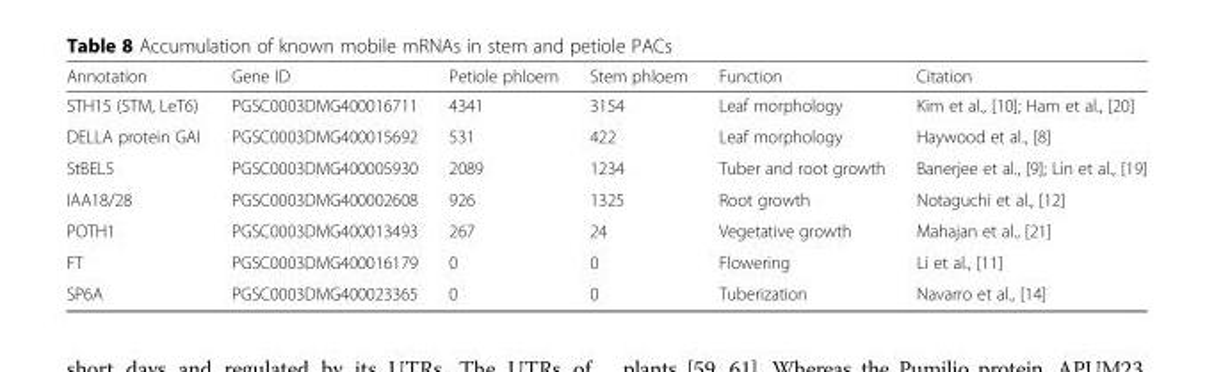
<table><thead><tr><td>Annotation</td><td>Gene ID</td><td>Petiole phloem</td><td>Stem phloem</td><td>Function</td><td>Citation</td></tr></thead><tbody><tr><td>STH15 (STM, LeT6)</td><td>PGSC0003DMG400016711</td><td>4341</td><td>3154</td><td>Leaf morphology</td><td>Kim et al., [10]; Ham et al., [20]</td></tr><tr><td>DELLA protein GAI</td><td>PGSC0003DMG400015692</td><td>531</td><td>422</td><td>Leaf morphology</td><td>Haywood et al., [8]</td></tr><tr><td>StBEL5</td><td>PGSC0003DMG400005930</td><td>2089</td><td>1234</td><td>Tuber and root growth</td><td>Banerjee et al., [9]; Lin et al., [19]</td></tr><tr><td>IAA18/28</td><td>PGSC0003DMG400002608</td><td>926</td><td>1325</td><td>Root growth</td><td>Notaguchi et al., [12]</td></tr><tr><td>POTH1</td><td>PGSC0003DMG400013493</td><td>267</td><td>24</td><td>Vegetative growth</td><td>Mahajan et al., [21]</td></tr><tr><td>FT</td><td>PGSC0003DMG400016179</td><td>0</td><td>0</td><td>Flowering</td><td>Li et al., [11]</td></tr><tr><td>SP6A</td><td>PGSC0003DMG400023365</td><td>0</td><td>0</td><td>Tuberization</td><td>Navarro et al., [14]</td></tr></tbody></table>